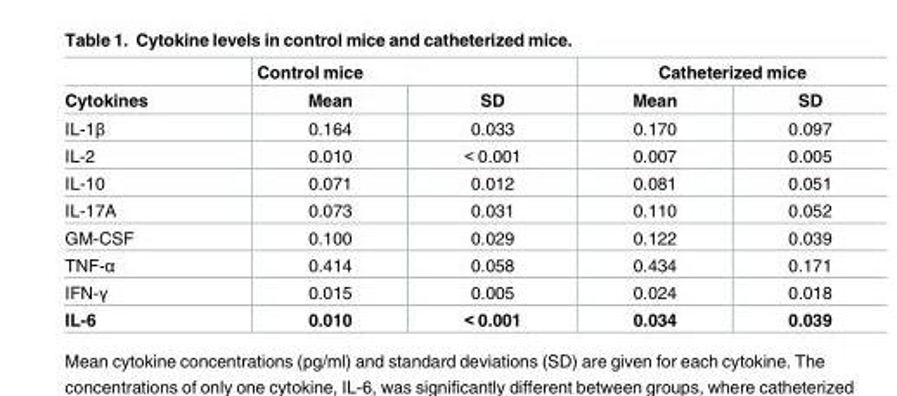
<table><thead><tr><td rowspan="2">Cytokines</td><td colspan="2">Control mice</td><td colspan="2">Catheterized mice</td></tr><tr><td>Mean</td><td>SD</td><td>Mean</td><td>SD</td></tr></thead><tbody><tr><td>IL-1β</td><td>0.164</td><td>0.033</td><td>0.170</td><td>0.097</td></tr><tr><td>IL-2</td><td>0.010</td><td>&lt; 0.001</td><td>0.007</td><td>0.005</td></tr><tr><td>IL-10</td><td>0.071</td><td>0.012</td><td>0.081</td><td>0.051</td></tr><tr><td>IL-17A</td><td>0.073</td><td>0.031</td><td>0.110</td><td>0.052</td></tr><tr><td>GM-CSF</td><td>0.100</td><td>0.029</td><td>0.122</td><td>0.039</td></tr><tr><td>TNF-α</td><td>0.414</td><td>0.058</td><td>0.434</td><td>0.171</td></tr><tr><td>IFN-γ</td><td>0.015</td><td>0.005</td><td>0.024</td><td>0.018</td></tr><tr><td>IL-6</td><td>0.010</td><td>&lt; 0.001</td><td>0.034</td><td>0.039</td></tr></tbody></table>